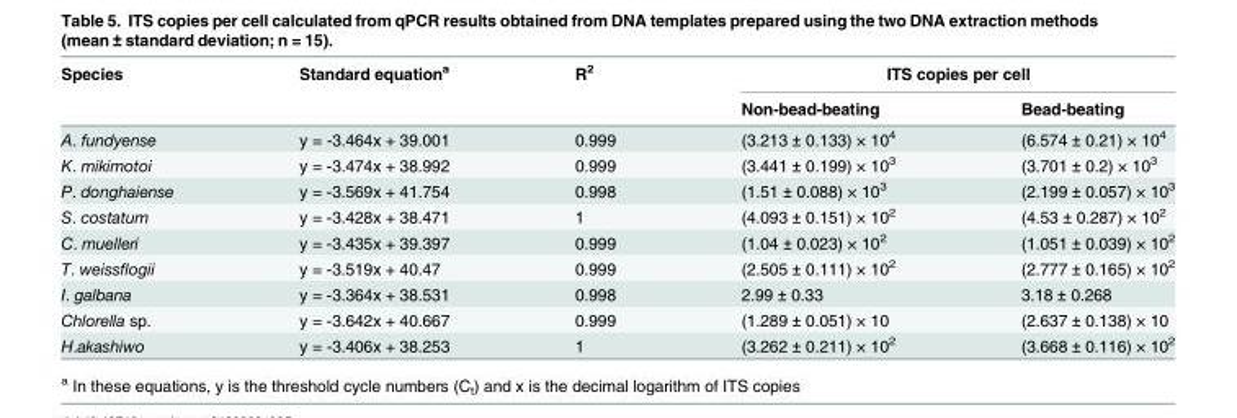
<table><thead><tr><td rowspan="2">Species</td><td rowspan="2">Standard equation<sup>a</sup></td><td rowspan="2">R<sup>2</sup></td><td colspan="2">ITS copies per cell</td></tr><tr><td>Non-bead-beating</td><td>Bead-beating</td></tr></thead><tbody><tr><td>A. fundyense</td><td>y = -3.464x + 39.001</td><td>0.999</td><td>(3.213 ± 0.133) × 10<sup>4</sup></td><td>(6.574 ± 0.21) × 10<sup>4</sup></td></tr><tr><td>K. mikimotoi</td><td>y = -3.474x + 38.992</td><td>0.999</td><td>(3.441 ± 0.199) × 10<sup>3</sup></td><td>(3.701 ± 0.2) × 10<sup>3</sup></td></tr><tr><td>P. donghaiense</td><td>y = -3.569x + 41.754</td><td>0.998</td><td>(1.51 ± 0.088) × 10<sup>3</sup></td><td>(2.199 ± 0.057) × 10<sup>3</sup></td></tr><tr><td>S. costatum</td><td>y = -3.428x + 38.471</td><td>1</td><td>(4.093 ± 0.151) × 10<sup>2</sup></td><td>(4.53 ± 0.287) × 10<sup>2</sup></td></tr><tr><td>C. muelleri</td><td>y = -3.435x + 39.397</td><td>0.999</td><td>(1.04 ± 0.023) × 10<sup>2</sup></td><td>(1.051 ± 0.039) × 10<sup>2</sup></td></tr><tr><td>T. weissflogii</td><td>y = -3.519x + 40.47</td><td>0.999</td><td>(2.505 ± 0.111) × 10<sup>2</sup></td><td>(2.777 ± 0.165) × 10<sup>2</sup></td></tr><tr><td>I. galbana</td><td>y = -3.364x + 38.531</td><td>0.998</td><td>2.99 ± 0.33</td><td>3.18 ± 0.268</td></tr><tr><td>Chlorella sp.</td><td>y = -3.642x + 40.667</td><td>0.999</td><td>(1.289 ± 0.051) × 10</td><td>(2.637 ± 0.138) × 10</td></tr><tr><td>H.akashiwo</td><td>y = -3.406x + 38.253</td><td>1</td><td>(3.262 ± 0.211) × 10<sup>2</sup></td><td>(3.668 ± 0.116) × 10<sup>2</sup></td></tr></tbody></table>